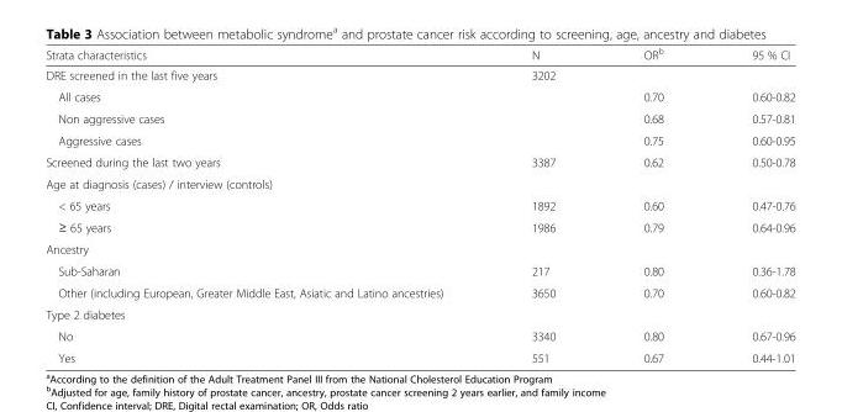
<table><thead><tr><td>Strata characteristics</td><td>N</td><td>OR<sup>b</sup></td><td>95 % CI</td></tr></thead><tbody><tr><td>DRE screened in the last five years</td><td>3202</td><td></td><td></td></tr><tr><td>All cases</td><td></td><td>0.70</td><td>0.60-0.82</td></tr><tr><td>Non aggressive cases</td><td></td><td>0.68</td><td>0.57-0.81</td></tr><tr><td>Aggressive cases</td><td></td><td>0.75</td><td>0.60-0.95</td></tr><tr><td>Screened during the last two years</td><td>3387</td><td>0.62</td><td>0.50-0.78</td></tr><tr><td colspan="4">Age at diagnosis (cases) / interview (controls)</td></tr><tr><td>&lt; 65 years</td><td>1892</td><td>0.60</td><td>0.47-0.76</td></tr><tr><td>≥ 65 years</td><td>1986</td><td>0.79</td><td>0.64-0.96</td></tr><tr><td colspan="4">Ancestry</td></tr><tr><td>Sub-Saharan</td><td>217</td><td>0.80</td><td>0.36-1.78</td></tr><tr><td>Other (including European, Greater Middle East, Asiatic and Latino ancestries)</td><td>3650</td><td>0.70</td><td>0.60-0.82</td></tr><tr><td colspan="4">Type 2 diabetes</td></tr><tr><td>No</td><td>3340</td><td>0.80</td><td>0.67-0.96</td></tr><tr><td>Yes</td><td>551</td><td>0.67</td><td>0.44-1.01</td></tr></tbody></table>